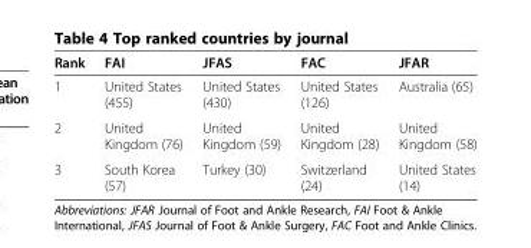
<table><thead><tr><td>Rank</td><td>FAI</td><td>JFAS</td><td>FAC</td><td>JFAR</td></tr></thead><tbody><tr><td>1</td><td>United States (455)</td><td>United States (430)</td><td>United States (126)</td><td>Australia (65)</td></tr><tr><td>2</td><td>United Kingdom (76)</td><td>United Kingdom (59)</td><td>United Kingdom (28)</td><td>United Kingdom (58)</td></tr><tr><td>3</td><td>South Korea (57)</td><td>Turkey (30)</td><td>Switzerland (24)</td><td>United States (14)</td></tr></tbody></table>